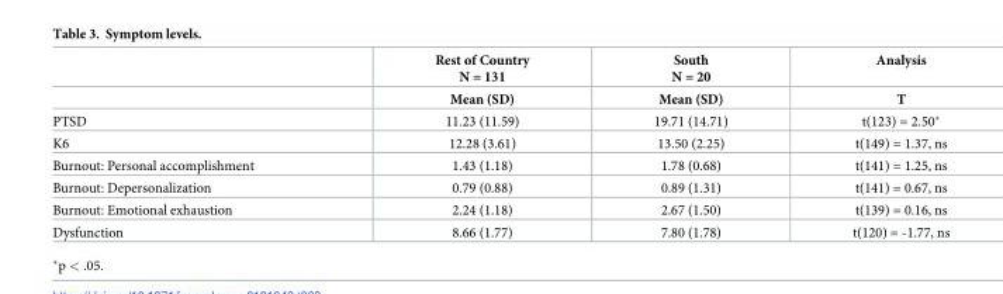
<table><thead><tr><td rowspan="2"></td><td rowspan="2">Rest of Country N = 131 Mean (SD)</td><td rowspan="2">South N = 20 Mean (SD)</td><td rowspan="2">Analysis T</td></tr><tr></tr></thead><tbody><tr><td>PTSD</td><td>11.23 (11.59)</td><td>19.71 (14.71)</td><td>t(123) = 2.50*</td></tr><tr><td>K6</td><td>12.28 (3.61)</td><td>13.50 (2.25)</td><td>t(149) = 1.37, ns</td></tr><tr><td>Burnout: Personal accomplishment</td><td>1.43 (1.18)</td><td>1.78 (0.68)</td><td>t(141) = 1.25, ns</td></tr><tr><td>Burnout: Depersonalization</td><td>0.79 (0.88)</td><td>0.89 (1.31)</td><td>t(141) = 0.67, ns</td></tr><tr><td>Burnout: Emotional exhaustion</td><td>2.24 (1.18)</td><td>2.67 (1.50)</td><td>t(139) = 0.16, ns</td></tr><tr><td>Dysfunction</td><td>8.66 (1.77)</td><td>7.80 (1.78)</td><td>t(120) = -1.77, ns</td></tr></tbody></table>